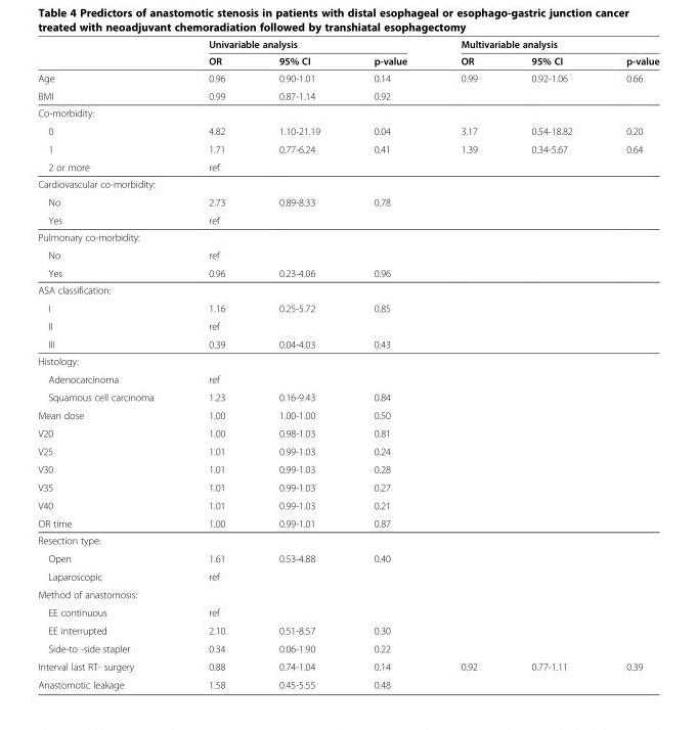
<table><thead><tr><td rowspan="2"></td><td colspan="3">Univariable analysis</td><td colspan="3">Multivariable analysis</td></tr><tr><td>OR</td><td>95% CI</td><td>p-value</td><td>OR</td><td>95% CI</td><td>p-value</td></tr></thead><tbody><tr><td>Age</td><td>0.96</td><td>0.90-1.01</td><td>0.14</td><td>0.99</td><td>0.92-1.06</td><td>0.66</td></tr><tr><td>BMI</td><td>0.99</td><td>0.87-1.14</td><td>0.92</td><td></td><td></td><td></td></tr><tr><td colspan="7">Co-morbidity:</td></tr><tr><td>0</td><td>4.82</td><td>1.10-21.19</td><td>0.04</td><td>3.17</td><td>0.54-18.82</td><td>0.20</td></tr><tr><td>1</td><td>1.71</td><td>0.77-6.24</td><td>0.41</td><td>1.39</td><td>0.34-5.67</td><td>0.64</td></tr><tr><td>2 or more</td><td>ref</td><td></td><td></td><td></td><td></td><td></td></tr><tr><td colspan="7">Cardiovascular co-morbidity:</td></tr><tr><td>No</td><td>2.73</td><td>0.89-8.33</td><td>0.78</td><td></td><td></td><td></td></tr><tr><td>Yes</td><td>ref</td><td></td><td></td><td></td><td></td><td></td></tr><tr><td colspan="7">Pulmonary co-morbidity:</td></tr><tr><td>No</td><td>ref</td><td></td><td></td><td></td><td></td><td></td></tr><tr><td>Yes</td><td>0.96</td><td>0.23-4.06</td><td>0.96</td><td></td><td></td><td></td></tr><tr><td colspan="7">ASA classification:</td></tr><tr><td>I</td><td>1.16</td><td>0.25-5.72</td><td>0.85</td><td></td><td></td><td></td></tr><tr><td>II</td><td>ref</td><td></td><td></td><td></td><td></td><td></td></tr><tr><td>III</td><td>0.39</td><td>0.04-4.03</td><td>0.43</td><td></td><td></td><td></td></tr><tr><td colspan="7">Histology:</td></tr><tr><td>Adenocarcinoma</td><td>ref</td><td></td><td></td><td></td><td></td><td></td></tr><tr><td>Squamous cell carcinoma</td><td>1.23</td><td>0.16-9.43</td><td>0.84</td><td></td><td></td><td></td></tr><tr><td>Mean dose</td><td>1.00</td><td>1.00-1.00</td><td>0.50</td><td></td><td></td><td></td></tr><tr><td>V20</td><td>1.00</td><td>0.98-1.03</td><td>0.81</td><td></td><td></td><td></td></tr><tr><td>V25</td><td>1.01</td><td>0.99-1.03</td><td>0.24</td><td></td><td></td><td></td></tr><tr><td>V30</td><td>1.01</td><td>0.99-1.03</td><td>0.28</td><td></td><td></td><td></td></tr><tr><td>V35</td><td>1.01</td><td>0.99-1.03</td><td>0.27</td><td></td><td></td><td></td></tr><tr><td>V40</td><td>1.01</td><td>0.99-1.03</td><td>0.21</td><td></td><td></td><td></td></tr><tr><td>OR time</td><td>1.00</td><td>0.99-1.01</td><td>0.87</td><td></td><td></td><td></td></tr><tr><td colspan="7">Resection type:</td></tr><tr><td>Open</td><td>1.61</td><td>0.53-4.88</td><td>0.40</td><td></td><td></td><td></td></tr><tr><td>Laparoscopic</td><td>ref</td><td></td><td></td><td></td><td></td><td></td></tr><tr><td colspan="7">Method of anastomosis:</td></tr><tr><td>EE continuous</td><td>ref</td><td></td><td></td><td></td><td></td><td></td></tr><tr><td>EE interrupted</td><td>2.10</td><td>0.51-8.57</td><td>0.30</td><td></td><td></td><td></td></tr><tr><td>Side-to -side stapler</td><td>0.34</td><td>0.06-1.90</td><td>0.22</td><td></td><td></td><td></td></tr><tr><td>Interval last RT- surgery</td><td>0.88</td><td>0.74-1.04</td><td>0.14</td><td>0.92</td><td>0.77-1.11</td><td>0.39</td></tr><tr><td>Anastomotic leakage</td><td>1.58</td><td>0.45-5.55</td><td>0.48</td><td></td><td></td><td></td></tr></tbody></table>